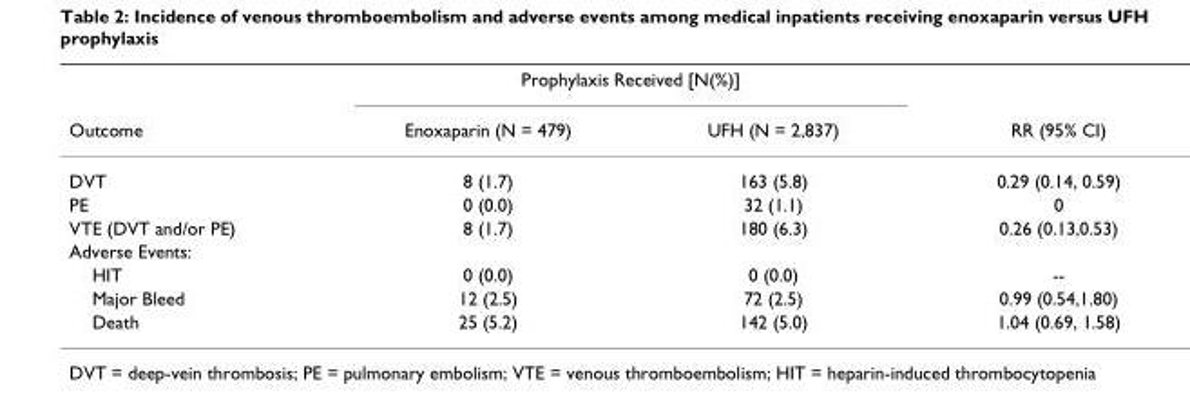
<table><thead><tr><td rowspan="2">Outcome</td><td colspan="2">Prophylaxis Received [N(%)]</td><td rowspan="2">RR (95% CI)</td></tr><tr><td>Enoxaparin (N = 479)</td><td>UFH (N = 2,837)</td></tr></thead><tbody><tr><td>DVT</td><td>8 (1.7)</td><td>163 (5.8)</td><td>0.29 (0.14, 0.59)</td></tr><tr><td>PE</td><td>0 (0.0)</td><td>32 (1.1)</td><td>0</td></tr><tr><td>VTE (DVT and/or PE)</td><td>8 (1.7)</td><td>180 (6.3)</td><td>0.26 (0.13,0.53)</td></tr><tr><td colspan="4">Adverse Events:</td></tr><tr><td>HIT</td><td>0 (0.0)</td><td>0 (0.0)</td><td>--</td></tr><tr><td>Major Bleed</td><td>12 (2.5)</td><td>72 (2.5)</td><td>0.99 (0.54,1.80)</td></tr><tr><td>Death</td><td>25 (5.2)</td><td>142 (5.0)</td><td>1.04 (0.69, 1.58)</td></tr></tbody></table>